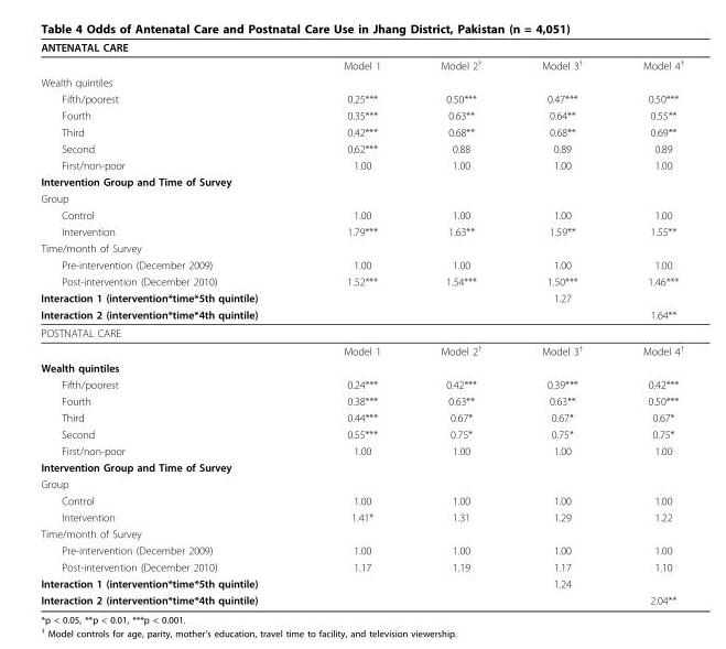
<table><thead><tr><td colspan="5">ANTENATAL CARE</td></tr><tr><td></td><td>Model 1</td><td>Model 2<sup>†</sup></td><td>Model 3<sup>†</sup></td><td>Model 4<sup>†</sup></td></tr></thead><tbody><tr><td colspan="5">Wealth quintiles</td></tr><tr><td>Fifth/poorest</td><td>0.25***</td><td>0.50***</td><td>0.47***</td><td>0.50***</td></tr><tr><td>Fourth</td><td>0.35***</td><td>0.63**</td><td>0.64**</td><td>0.55**</td></tr><tr><td>Third</td><td>0.42***</td><td>0.68**</td><td>0.68**</td><td>0.69**</td></tr><tr><td>Second</td><td>0.62***</td><td>0.88</td><td>0.89</td><td>0.89</td></tr><tr><td>First/non-poor</td><td>1.00</td><td>1.00</td><td>1.00</td><td>1.00</td></tr><tr><td colspan="5">Intervention Group and Time of Survey</td></tr><tr><td colspan="5">Group</td></tr><tr><td>Control</td><td>1.00</td><td>1.00</td><td>1.00</td><td>1.00</td></tr><tr><td>Intervention</td><td>1.79***</td><td>1.63**</td><td>1.59**</td><td>1.55**</td></tr><tr><td colspan="5">Time/month of Survey</td></tr><tr><td>Pre-intervention (December 2009)</td><td>1.00</td><td>1.00</td><td>1.00</td><td>1.00</td></tr><tr><td>Post-intervention (December 2010)</td><td>1.52***</td><td>1.54***</td><td>1.50***</td><td>1.46***</td></tr><tr><td>Interaction 1 (intervention*time*5th quintile)</td><td></td><td></td><td>1.27</td><td></td></tr><tr><td>Interaction 2 (intervention*time*4th quintile)</td><td></td><td></td><td></td><td>1.64**</td></tr><tr><td colspan="5">POSTNATAL CARE</td></tr><tr><td></td><td>Model 1</td><td>Model 2<sup>†</sup></td><td>Model 3<sup>†</sup></td><td>Model 4<sup>†</sup></td></tr><tr><td colspan="5">Wealth quintiles</td></tr><tr><td>Fifth/poorest</td><td>0.24***</td><td>0.42***</td><td>0.39***</td><td>0.42***</td></tr><tr><td>Fourth</td><td>0.38***</td><td>0.63**</td><td>0.63**</td><td>0.50***</td></tr><tr><td>Third</td><td>0.44***</td><td>0.67*</td><td>0.67*</td><td>0.67*</td></tr><tr><td>Second</td><td>0.55***</td><td>0.75*</td><td>0.75*</td><td>0.75*</td></tr><tr><td>First/non-poor</td><td>1.00</td><td>1.00</td><td>1.00</td><td>1.00</td></tr><tr><td colspan="5">Intervention Group and Time of Survey</td></tr><tr><td colspan="5">Group</td></tr><tr><td>Control</td><td>1.00</td><td>1.00</td><td>1.00</td><td>1.00</td></tr><tr><td>Intervention</td><td>1.41*</td><td>1.31</td><td>1.29</td><td>1.22</td></tr><tr><td colspan="5">Time/month of Survey</td></tr><tr><td>Pre-intervention (December 2009)</td><td>1.00</td><td>1.00</td><td>1.00</td><td>1.00</td></tr><tr><td>Post-intervention (December 2010)</td><td>1.17</td><td>1.19</td><td>1.17</td><td>1.10</td></tr><tr><td>Interaction 1 (intervention*time*5th quintile)</td><td></td><td></td><td>1.24</td><td></td></tr><tr><td>Interaction 2 (intervention*time*4th quintile)</td><td></td><td></td><td></td><td>2.04**</td></tr></tbody></table>